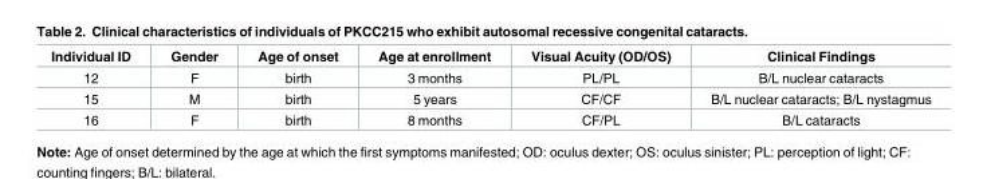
<table><thead><tr><td>Individual ID</td><td>Gender</td><td>Age of onset</td><td>Age at enrollment</td><td>Visual Acuity (OD/OS)</td><td>Clinical Findings</td></tr></thead><tbody><tr><td>12</td><td>F</td><td>birth</td><td>3 months</td><td>PL/PL</td><td>B/L nuclear cataracts</td></tr><tr><td>15</td><td>M</td><td>birth</td><td>5 years</td><td>CF/CF</td><td>B/L nuclear cataracts; B/L nystagmus</td></tr><tr><td>16</td><td>F</td><td>birth</td><td>8 months</td><td>CF/PL</td><td>B/L cataracts</td></tr></tbody></table>